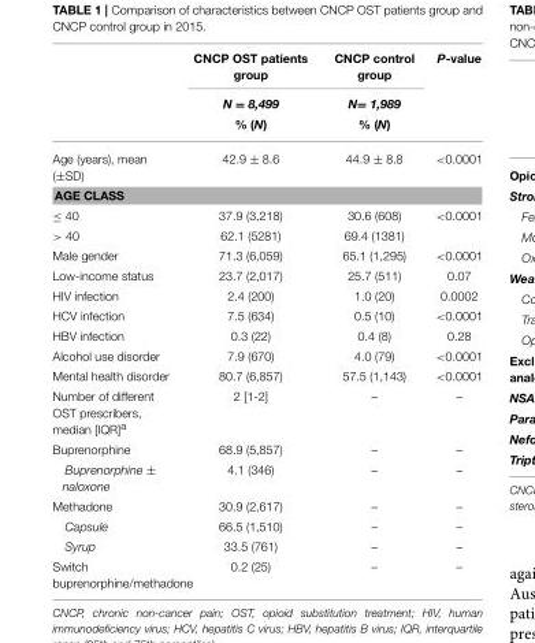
<table><thead><tr><td rowspan="3"></td><td rowspan="3">CNCP OST patients group N = 8,499 % (N)</td><td rowspan="3">CNCP control group N= 1,989 % (N)</td><td rowspan="3">P-value</td></tr><tr></tr><tr></tr></thead><tbody><tr><td>Age (years), mean (±SD)</td><td>42.9 ± 8.6</td><td>44.9 ± 8.8</td><td>&lt;0.0001</td></tr><tr><td colspan="4">AGE CLASS</td></tr><tr><td>≤ 40</td><td>37.9 (3,218)</td><td>30.6 (608)</td><td>&lt;0.0001</td></tr><tr><td>&gt; 40</td><td>62.1 (5281)</td><td>69.4 (1381)</td><td></td></tr><tr><td>Male gender</td><td>71.3 (6,059)</td><td>65.1 (1,295)</td><td>&lt;0.0001</td></tr><tr><td>Low-income status</td><td>23.7 (2,017)</td><td>25.7 (511)</td><td>0.07</td></tr><tr><td>HIV infection</td><td>2.4 (200)</td><td>1.0 (20)</td><td>0.0002</td></tr><tr><td>HCV infection</td><td>7.5 (634)</td><td>0.5 (10)</td><td>&lt;0.0001</td></tr><tr><td>HBV infection</td><td>0.3 (22)</td><td>0.4 (8)</td><td>0.28</td></tr><tr><td>Alcohol use disorder</td><td>7.9 (670)</td><td>4.0 (79)</td><td>&lt;0.0001</td></tr><tr><td>Mental health disorder</td><td>80.7 (6,857)</td><td>57.5 (1,143)</td><td>&lt;0.0001</td></tr><tr><td>Number of different OST prescribers, median [IQR]<sup>a</sup></td><td>2 [1-2]</td><td>–</td><td>–</td></tr><tr><td>Buprenorphine</td><td>68.9 (5,857)</td><td>–</td><td>–</td></tr><tr><td>Buprenorphine ± naloxone</td><td>4.1 (346)</td><td>–</td><td>–</td></tr><tr><td>Methadone</td><td>30.9 (2,617)</td><td>–</td><td>–</td></tr><tr><td>Capsule</td><td>66.5 (1,510)</td><td>–</td><td>–</td></tr><tr><td>Syrup</td><td>33.5 (761)</td><td>–</td><td>–</td></tr><tr><td>Switch buprenorphine/methadone</td><td>0.2 (25)</td><td>–</td><td>–</td></tr></tbody></table>